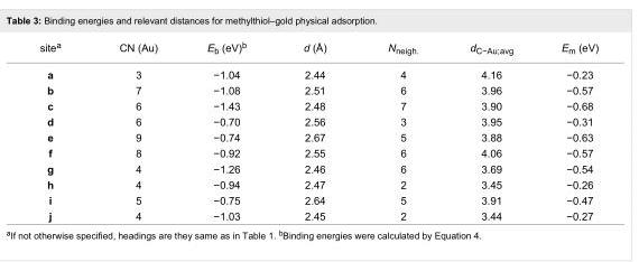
<table><tbody><tr><td>site<sup>a</sup></td><td>CN (Au)</td><td>E<sub>b</sub> (eV)<sup>b</sup></td><td>d (Å)</td><td>N<sub>neigh.</sub></td><td>d<sub>C−Au;avg</sub></td><td>E<sub>m</sub> (eV)</td></tr><tr><td>a</td><td>3</td><td>−1.04</td><td>2.44</td><td>4</td><td>4.16</td><td>−0.23</td></tr><tr><td>b</td><td>7</td><td>−1.08</td><td>2.51</td><td>6</td><td>3.96</td><td>−0.57</td></tr><tr><td>c</td><td>6</td><td>−1.43</td><td>2.48</td><td>7</td><td>3.90</td><td>−0.68</td></tr><tr><td>d</td><td>6</td><td>−0.70</td><td>2.56</td><td>3</td><td>3.95</td><td>−0.31</td></tr><tr><td>e</td><td>9</td><td>−0.74</td><td>2.67</td><td>5</td><td>3.88</td><td>−0.63</td></tr><tr><td>f</td><td>8</td><td>−0.92</td><td>2.55</td><td>6</td><td>4.06</td><td>−0.57</td></tr><tr><td>g</td><td>4</td><td>−1.26</td><td>2.46</td><td>6</td><td>3.69</td><td>−0.54</td></tr><tr><td>h</td><td>4</td><td>−0.94</td><td>2.47</td><td>2</td><td>3.45</td><td>−0.26</td></tr><tr><td>i</td><td>5</td><td>−0.75</td><td>2.64</td><td>5</td><td>3.91</td><td>−0.47</td></tr><tr><td>j</td><td>4</td><td>−1.03</td><td>2.45</td><td>2</td><td>3.44</td><td>−0.27</td></tr></tbody></table>